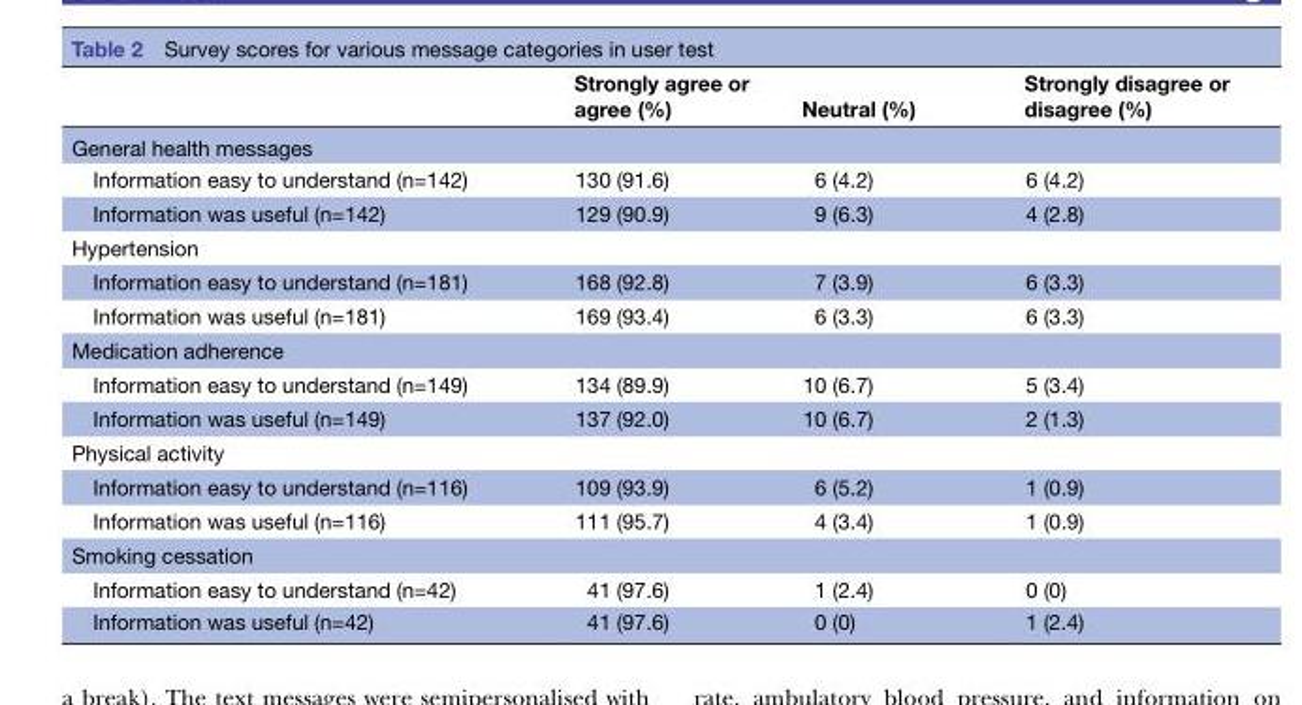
<table><thead><tr><td></td><td>Strongly agree or agree (%)</td><td>Neutral (%)</td><td>Strongly disagree or disagree (%)</td></tr></thead><tbody><tr><td colspan="4">General health messages</td></tr><tr><td>Information easy to understand (n=142)</td><td>130 (91.6)</td><td>6 (4.2)</td><td>6 (4.2)</td></tr><tr><td>Information was useful (n=142)</td><td>129 (90.9)</td><td>9 (6.3)</td><td>4 (2.8)</td></tr><tr><td colspan="4">Hypertension</td></tr><tr><td>Information easy to understand (n=181)</td><td>168 (92.8)</td><td>7 (3.9)</td><td>6 (3.3)</td></tr><tr><td>Information was useful (n=181)</td><td>169 (93.4)</td><td>6 (3.3)</td><td>6 (3.3)</td></tr><tr><td colspan="4">Medication adherence</td></tr><tr><td>Information easy to understand (n=149)</td><td>134 (89.9)</td><td>10 (6.7)</td><td>5 (3.4)</td></tr><tr><td>Information was useful (n=149)</td><td>137 (92.0)</td><td>10 (6.7)</td><td>2 (1.3)</td></tr><tr><td colspan="4">Physical activity</td></tr><tr><td>Information easy to understand (n=116)</td><td>109 (93.9)</td><td>6 (5.2)</td><td>1 (0.9)</td></tr><tr><td>Information was useful (n=116)</td><td>111 (95.7)</td><td>4 (3.4)</td><td>1 (0.9)</td></tr><tr><td colspan="4">Smoking cessation</td></tr><tr><td>Information easy to understand (n=42)</td><td>41 (97.6)</td><td>1 (2.4)</td><td>0 (0)</td></tr><tr><td>Information was useful (n=42)</td><td>41 (97.6)</td><td>0 (0)</td><td>1 (2.4)</td></tr></tbody></table>